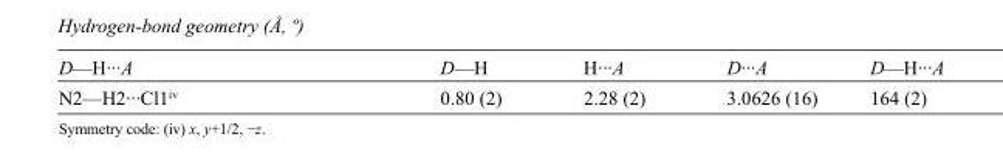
<table><tbody><tr><td>D—H···A</td><td>D—H</td><td>H···A</td><td>D···A</td><td>D—H···A</td></tr><tr><td>N2—H2···Cl1<sup>iv</sup></td><td>0.80 (2)</td><td>2.28 (2)</td><td>3.0626 (16)</td><td>164 (2)</td></tr></tbody></table>